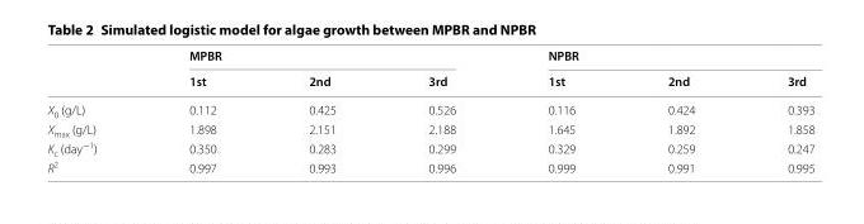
<table><thead><tr><td rowspan="2"></td><td colspan="3">MPBR</td><td colspan="3">NPBR</td></tr><tr><td>1st</td><td>2nd</td><td>3rd</td><td>1st</td><td>2nd</td><td>3rd</td></tr></thead><tbody><tr><td>X<sub>0</sub> (g/L)</td><td>0.112</td><td>0.425</td><td>0.526</td><td>0.116</td><td>0.424</td><td>0.393</td></tr><tr><td>X<sub>max</sub> (g/L)</td><td>1.898</td><td>2.151</td><td>2.188</td><td>1.645</td><td>1.892</td><td>1.858</td></tr><tr><td>K<sub>c</sub> (day<sup>−1</sup>)</td><td>0.350</td><td>0.283</td><td>0.299</td><td>0.329</td><td>0.259</td><td>0.247</td></tr><tr><td>R<sup>2</sup></td><td>0.997</td><td>0.993</td><td>0.996</td><td>0.999</td><td>0.991</td><td>0.995</td></tr></tbody></table>